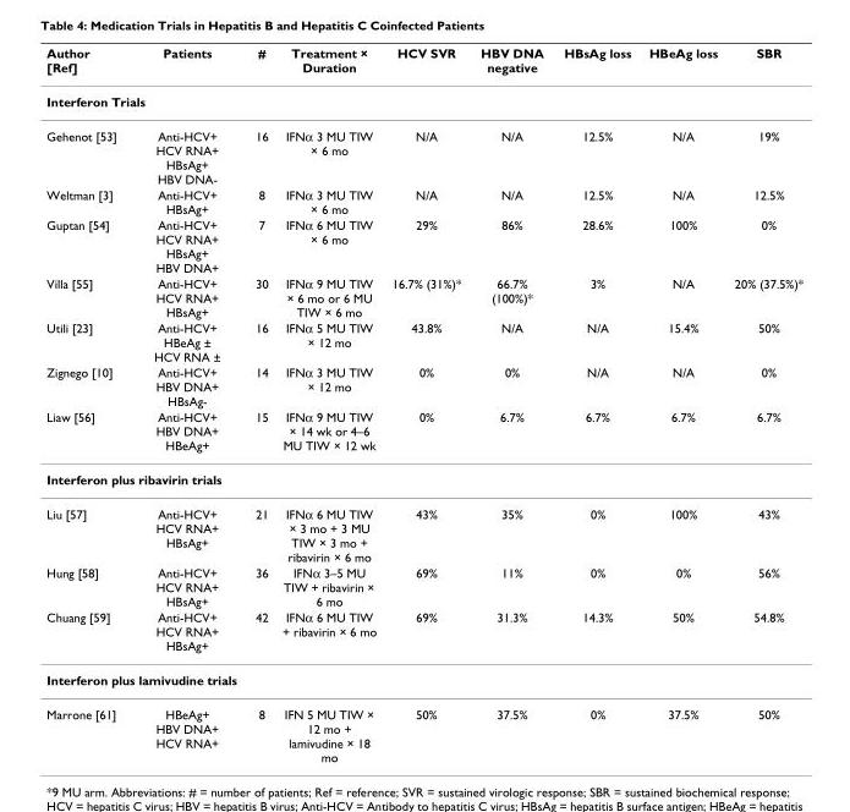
<table><thead><tr><td>Author [Ref]</td><td>Patients</td><td>#</td><td>Treatment × Duration</td><td>HCV SVR</td><td>HBV DNA negative</td><td>HBsAg loss</td><td>HBeAg loss</td><td>SBR</td></tr></thead><tbody><tr><td colspan="9">Interferon Trials</td></tr><tr><td>Gehenot [53]</td><td>Anti-HCV+ HCV RNA+ HBsAg+ HBV DNA-</td><td>16</td><td>IFNα 3 MU TIW × 6 mo</td><td>N/A</td><td>N/A</td><td>12.5%</td><td>N/A</td><td>19%</td></tr><tr><td>Weltman [3]</td><td>Anti-HCV+ HBsAg+</td><td>8</td><td>IFNα 3 MU TIW × 6 mo</td><td>N/A</td><td>N/A</td><td>12.5%</td><td>N/A</td><td>12.5%</td></tr><tr><td>Guptan [54]</td><td>Anti-HCV+ HCV RNA+ HBsAg+ HBV DNA+</td><td>7</td><td>IFNα 6 MU TIW × 6 mo</td><td>29%</td><td>86%</td><td>28.6%</td><td>100%</td><td>0%</td></tr><tr><td>Villa [55]</td><td>Anti-HCV+ HCV RNA+ HBsAg+</td><td>30</td><td>IFNα 9 MU TIW × 6 mo or 6 MU TIW × 6 mo</td><td>16.7% (31%)*</td><td>66.7% (100%)*</td><td>3%</td><td>N/A</td><td>20% (37.5%)*</td></tr><tr><td>Utili [23]</td><td>Anti-HCV+ HBeAg ± HCV RNA ±</td><td>16</td><td>IFNα 5 MU TIW × 12 mo</td><td>43.8%</td><td>N/A</td><td>N/A</td><td>15.4%</td><td>50%</td></tr><tr><td>Zignego [10]</td><td>Anti-HCV+ HBV DNA+ HBsAg-</td><td>14</td><td>IFNα 3 MU TIW × 12 mo</td><td>0%</td><td>0%</td><td>N/A</td><td>N/A</td><td>0%</td></tr><tr><td>Liaw [56]</td><td>Anti-HCV+ HBV DNA+ HBeAg+</td><td>15</td><td>IFNα 9 MU TIW × 14 wk or 4–6 MU TIW × 12 wk</td><td>0%</td><td>6.7%</td><td>6.7%</td><td>6.7%</td><td>6.7%</td></tr><tr><td colspan="9">Interferon plus ribavirin trials</td></tr><tr><td>Liu [57]</td><td>Anti-HCV+ HCV RNA+ HBsAg+</td><td>21</td><td>IFNα 6 MU TIW × 3 mo + 3 MU TIW × 3 mo + ribavirin × 6 mo</td><td>43%</td><td>35%</td><td>0%</td><td>100%</td><td>43%</td></tr><tr><td>Hung [58]</td><td>Anti-HCV+ HCV RNA+ HBsAg+</td><td>36</td><td>IFNα 3–5 MU TIW + ribavirin × 6 mo</td><td>69%</td><td>11%</td><td>0%</td><td>0%</td><td>56%</td></tr><tr><td>Chuang [59]</td><td>Anti-HCV+ HCV RNA+ HBsAg+</td><td>42</td><td>IFNα 6 MU TIW + ribavirin × 6 mo</td><td>69%</td><td>31.3%</td><td>14.3%</td><td>50%</td><td>54.8%</td></tr><tr><td colspan="9">Interferon plus lamivudine trials</td></tr><tr><td>Marrone [61]</td><td>HBeAg+ HBV DNA+ HCV RNA+</td><td>8</td><td>IFN 5 MU TIW × 12 mo + lamivudine × 18 mo</td><td>50%</td><td>37.5%</td><td>0%</td><td>37.5%</td><td>50%</td></tr></tbody></table>